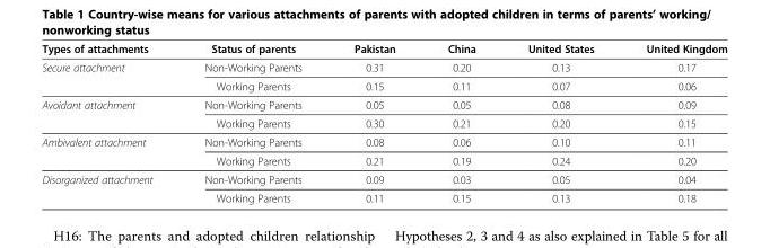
<table><thead><tr><td>Types of attachments</td><td>Status of parents</td><td>Pakistan</td><td>China</td><td>United States</td><td>United Kingdom</td></tr></thead><tbody><tr><td rowspan="2">Secure attachment</td><td>Non-Working Parents</td><td>0.31</td><td>0.20</td><td>0.13</td><td>0.17</td></tr><tr><td>Working Parents</td><td>0.15</td><td>0.11</td><td>0.07</td><td>0.06</td></tr><tr><td rowspan="2">Avoidant attachment</td><td>Non-Working Parents</td><td>0.05</td><td>0.05</td><td>0.08</td><td>0.09</td></tr><tr><td>Working Parents</td><td>0.30</td><td>0.21</td><td>0.20</td><td>0.15</td></tr><tr><td rowspan="2">Ambivalent attachment</td><td>Non-Working Parents</td><td>0.08</td><td>0.06</td><td>0.10</td><td>0.11</td></tr><tr><td>Working Parents</td><td>0.21</td><td>0.19</td><td>0.24</td><td>0.20</td></tr><tr><td rowspan="2">Disorganized attachment</td><td>Non-Working Parents</td><td>0.09</td><td>0.03</td><td>0.05</td><td>0.04</td></tr><tr><td>Working Parents</td><td>0.11</td><td>0.15</td><td>0.13</td><td>0.18</td></tr></tbody></table>